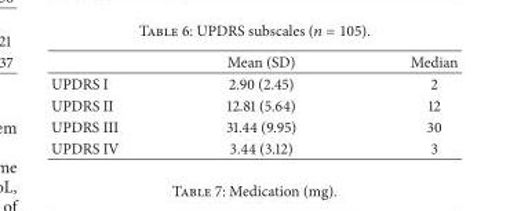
<table><thead><tr><td></td><td>Mean (SD)</td><td>Median</td></tr></thead><tbody><tr><td>UPDRS I</td><td>2.90 (2.45)</td><td>2</td></tr><tr><td>UPDRS II</td><td>12.81 (5.64)</td><td>12</td></tr><tr><td>UPDRS III</td><td>31.44 (9.95)</td><td>30</td></tr><tr><td>UPDRS IV</td><td>3.44 (3.12)</td><td>3</td></tr></tbody></table>